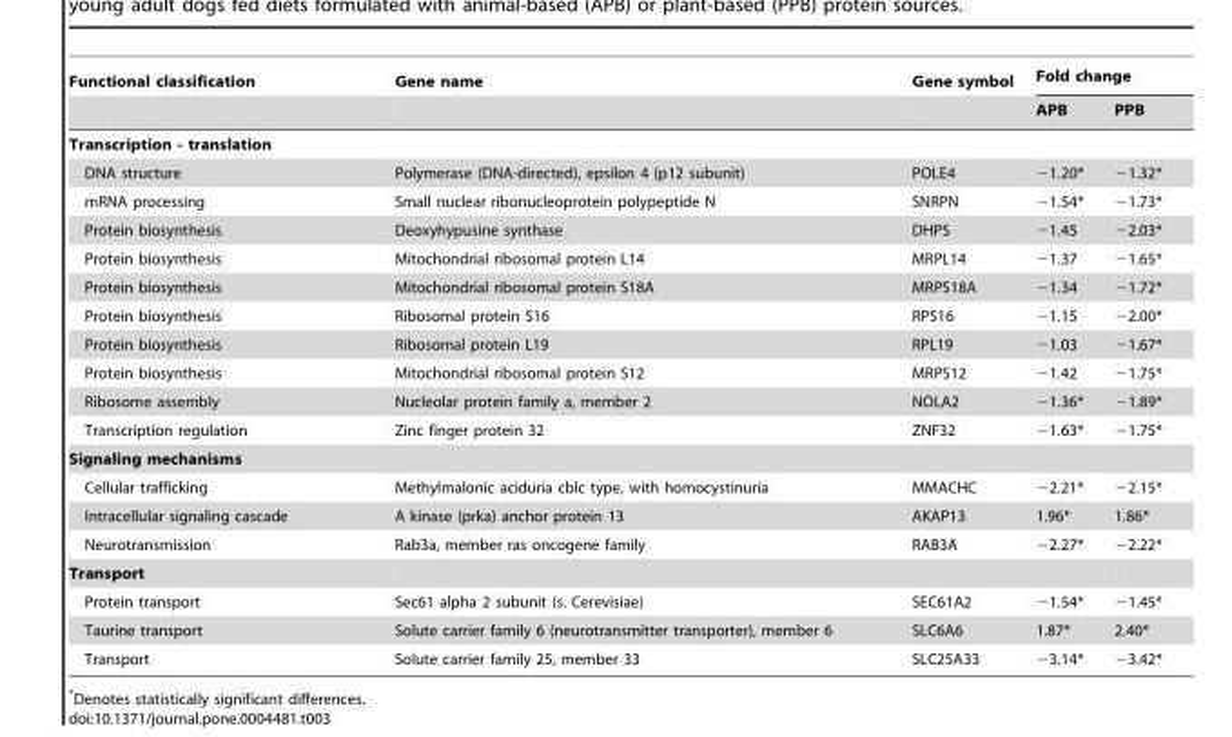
<table><thead><tr><td rowspan="2">Functional classification</td><td rowspan="2">Gene name</td><td rowspan="2">Gene symbol</td><td colspan="2">Fold change</td></tr><tr><td>APB</td><td>PPB</td></tr></thead><tbody><tr><td colspan="5">Transcription - translation</td></tr><tr><td>DNA structure</td><td>Polymerase (DNA-directed), epsilon 4 (p12 subunit)</td><td>POLE4</td><td>−1.20*</td><td>−1.32*</td></tr><tr><td>mRNA processing</td><td>Small nuclear ribonucleoprotein polypeptide N</td><td>SNRPN</td><td>−1.54*</td><td>−1.73*</td></tr><tr><td>Protein biosynthesis</td><td>Deoxyhypusine synthase</td><td>DHPS</td><td>−1.45</td><td>−2.03*</td></tr><tr><td>Protein biosynthesis</td><td>Mitochondrial ribosomal protein L14</td><td>MRPL14</td><td>−1.37</td><td>−1.65*</td></tr><tr><td>Protein biosynthesis</td><td>Mitochondrial ribosomal protein S18A</td><td>MRPS18A</td><td>−1.34</td><td>−1.72*</td></tr><tr><td>Protein biosynthesis</td><td>Ribosomal protein S16</td><td>RPS16</td><td>−1.15</td><td>−2.00*</td></tr><tr><td>Protein biosynthesis</td><td>Ribosomal protein L19</td><td>RPL19</td><td>−1.03</td><td>−1.67*</td></tr><tr><td>Protein biosynthesis</td><td>Mitochondrial ribosomal protein S12</td><td>MRPS12</td><td>−1.42</td><td>−1.75*</td></tr><tr><td>Ribosome assembly</td><td>Nucleolar protein family a, member 2</td><td>NOLA2</td><td>−1.36*</td><td>−1.89*</td></tr><tr><td>Transcription regulation</td><td>Zinc finger protein 32</td><td>ZNF32</td><td>−1.63*</td><td>−1.75*</td></tr><tr><td colspan="5">Signaling mechanisms</td></tr><tr><td>Cellular trafficking</td><td>Methylmalonic aciduria cblc type, with homocystinuria</td><td>MMACHC</td><td>−2.21*</td><td>−2.15*</td></tr><tr><td>Intracellular signaling cascade</td><td>A kinase (prka) anchor protein 13</td><td>AKAP13</td><td>1.96*</td><td>1.86*</td></tr><tr><td>Neurotransmission</td><td>Rab3a, member ras oncogene family</td><td>RAB3A</td><td>−2.27*</td><td>−2.22*</td></tr><tr><td colspan="5">Transport</td></tr><tr><td>Protein transport</td><td>Sec61 alpha 2 subunit (s. Cerevisiae)</td><td>SEC61A2</td><td>−1.54*</td><td>−1.45*</td></tr><tr><td>Taurine transport</td><td>Solute carrier family 6 (neurotransmitter transporter), member 6</td><td>SLC6A6</td><td>1.87*</td><td>2.40*</td></tr><tr><td>Transport</td><td>Solute carrier family 25, member 33</td><td>SLC25A33</td><td>−3.14*</td><td>−3.42*</td></tr></tbody></table>